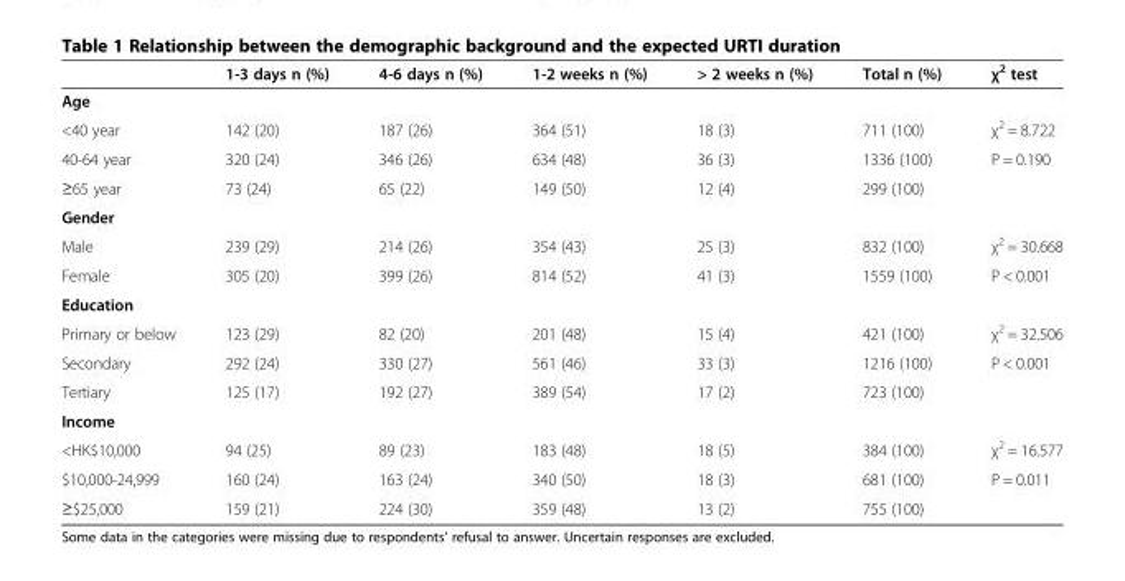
<table><thead><tr><td></td><td>1-3 days n (%)</td><td>4-6 days n (%)</td><td>1-2 weeks n (%)</td><td>&gt; 2 weeks n (%)</td><td>Total n (%)</td><td>χ<sup>2</sup> test</td></tr></thead><tbody><tr><td colspan="7">Age</td></tr><tr><td>&lt;40 year</td><td>142 (20)</td><td>187 (26)</td><td>364 (51)</td><td>18 (3)</td><td>711 (100)</td><td>χ<sup>2</sup> = 8.722</td></tr><tr><td>40-64 year</td><td>320 (24)</td><td>346 (26)</td><td>634 (48)</td><td>36 (3)</td><td>1336 (100)</td><td>P = 0.190</td></tr><tr><td>≥65 year</td><td>73 (24)</td><td>65 (22)</td><td>149 (50)</td><td>12 (4)</td><td>299 (100)</td><td></td></tr><tr><td colspan="7">Gender</td></tr><tr><td>Male</td><td>239 (29)</td><td>214 (26)</td><td>354 (43)</td><td>25 (3)</td><td>832 (100)</td><td>χ<sup>2</sup> = 30.668</td></tr><tr><td>Female</td><td>305 (20)</td><td>399 (26)</td><td>814 (52)</td><td>41 (3)</td><td>1559 (100)</td><td>P &lt; 0.001</td></tr><tr><td colspan="7">Education</td></tr><tr><td>Primary or below</td><td>123 (29)</td><td>82 (20)</td><td>201 (48)</td><td>15 (4)</td><td>421 (100)</td><td>χ<sup>2</sup> = 32.506</td></tr><tr><td>Secondary</td><td>292 (24)</td><td>330 (27)</td><td>561 (46)</td><td>33 (3)</td><td>1216 (100)</td><td>P &lt; 0.001</td></tr><tr><td>Tertiary</td><td>125 (17)</td><td>192 (27)</td><td>389 (54)</td><td>17 (2)</td><td>723 (100)</td><td></td></tr><tr><td colspan="7">Income</td></tr><tr><td>&lt;HK$10,000</td><td>94 (25)</td><td>89 (23)</td><td>183 (48)</td><td>18 (5)</td><td>384 (100)</td><td>χ<sup>2</sup> = 16.577</td></tr><tr><td>$10,000-24,999</td><td>160 (24)</td><td>163 (24)</td><td>340 (50)</td><td>18 (3)</td><td>681 (100)</td><td>P = 0.011</td></tr><tr><td>≥$25,000</td><td>159 (21)</td><td>224 (30)</td><td>359 (48)</td><td>13 (2)</td><td>755 (100)</td><td></td></tr></tbody></table>